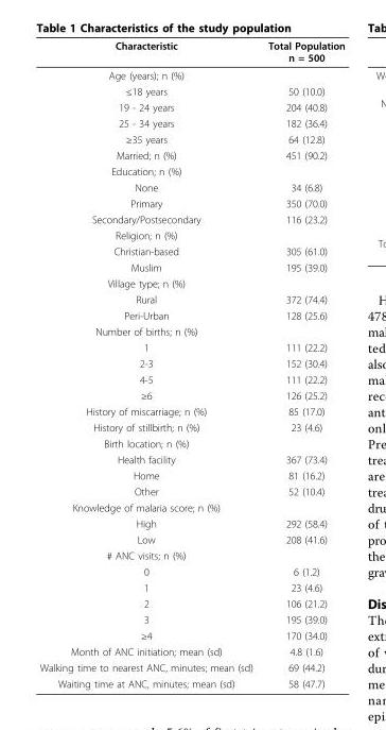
<table><thead><tr><td>Characteristic</td><td>Total Population n = 500</td></tr></thead><tbody><tr><td colspan="2">Age (years); n (%)</td></tr><tr><td>≤18 years</td><td>50 (10.0)</td></tr><tr><td>19 - 24 years</td><td>204 (40.8)</td></tr><tr><td>25 - 34 years</td><td>182 (36.4)</td></tr><tr><td>≥35 years</td><td>64 (12.8)</td></tr><tr><td>Married; n (%)</td><td>451 (90.2)</td></tr><tr><td colspan="2">Education; n (%)</td></tr><tr><td>None</td><td>34 (6.8)</td></tr><tr><td>Primary</td><td>350 (70.0)</td></tr><tr><td>Secondary/Postsecondary</td><td>116 (23.2)</td></tr><tr><td colspan="2">Religion; n (%)</td></tr><tr><td>Christian-based</td><td>305 (61.0)</td></tr><tr><td>Muslim</td><td>195 (39.0)</td></tr><tr><td colspan="2">Village type; n (%)</td></tr><tr><td>Rural</td><td>372 (74.4)</td></tr><tr><td>Peri-Urban</td><td>128 (25.6)</td></tr><tr><td colspan="2">Number of births; n (%)</td></tr><tr><td>1</td><td>111 (22.2)</td></tr><tr><td>2-3</td><td>152 (30.4)</td></tr><tr><td>4-5</td><td>111 (22.2)</td></tr><tr><td>≥6</td><td>126 (25.2)</td></tr><tr><td>History of miscarriage; n (%)</td><td>85 (17.0)</td></tr><tr><td>History of stillbirth; n (%)</td><td>23 (4.6)</td></tr><tr><td colspan="2">Birth location; n (%)</td></tr><tr><td>Health facility</td><td>367 (73.4)</td></tr><tr><td>Home</td><td>81 (16.2)</td></tr><tr><td>Other</td><td>52 (10.4)</td></tr><tr><td colspan="2">Knowledge of malaria score; n (%)</td></tr><tr><td>High</td><td>292 (58.4)</td></tr><tr><td>Low</td><td>208 (41.6)</td></tr><tr><td colspan="2"># ANC visits; n (%)</td></tr><tr><td>0</td><td>6 (1.2)</td></tr><tr><td>1</td><td>23 (4.6)</td></tr><tr><td>2</td><td>106 (21.2)</td></tr><tr><td>3</td><td>195 (39.0)</td></tr><tr><td>≥4</td><td>170 (34.0)</td></tr><tr><td>Month of ANC initiation; mean (sd)</td><td>4.8 (1.6)</td></tr><tr><td>Walking time to nearest ANC, minutes; mean (sd)</td><td>69 (44.2)</td></tr><tr><td>Waiting time at ANC, minutes; mean (sd)</td><td>58 (47.7)</td></tr></tbody></table>